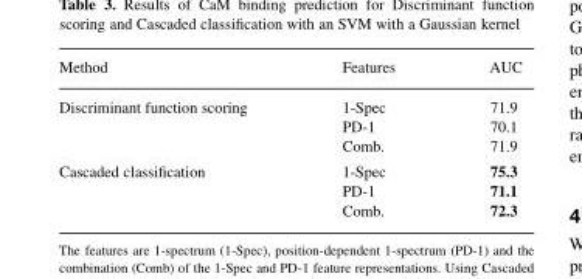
<table><thead><tr><td>Method</td><td>Features</td><td>AUC</td></tr></thead><tbody><tr><td rowspan="3">Discriminant function scoring</td><td>1-Spec</td><td>71.9</td></tr><tr><td>PD-1</td><td>70.1</td></tr><tr><td>Comb.</td><td>71.9</td></tr><tr><td rowspan="3">Cascaded classification</td><td>1-Spec</td><td>75.3</td></tr><tr><td>PD-1</td><td>71.1</td></tr><tr><td>Comb.</td><td>72.3</td></tr></tbody></table>